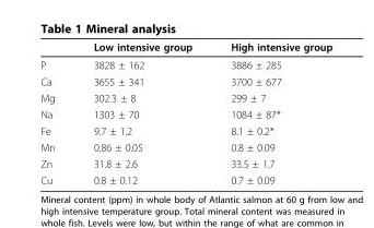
<table><thead><tr><td></td><td>Low intensive group</td><td>High intensive group</td></tr></thead><tbody><tr><td>P</td><td>3828 ± 162</td><td>3886 ± 285</td></tr><tr><td>Ca</td><td>3655 ± 341</td><td>3700 ± 677</td></tr><tr><td>Mg</td><td>302.3 ± 8</td><td>299 ± 7</td></tr><tr><td>Na</td><td>1303 ± 70</td><td>1084 ± 87*</td></tr><tr><td>Fe</td><td>9.7 ± 1.2</td><td>8.1 ± 0.2*</td></tr><tr><td>Mn</td><td>0.86 ± 0.05</td><td>0.8 ± 0.09</td></tr><tr><td>Zn</td><td>31.8 ± 2.6</td><td>33.5 ± 1.7</td></tr><tr><td>Cu</td><td>0.8 ± 0.12</td><td>0.7 ± 0.09</td></tr></tbody></table>